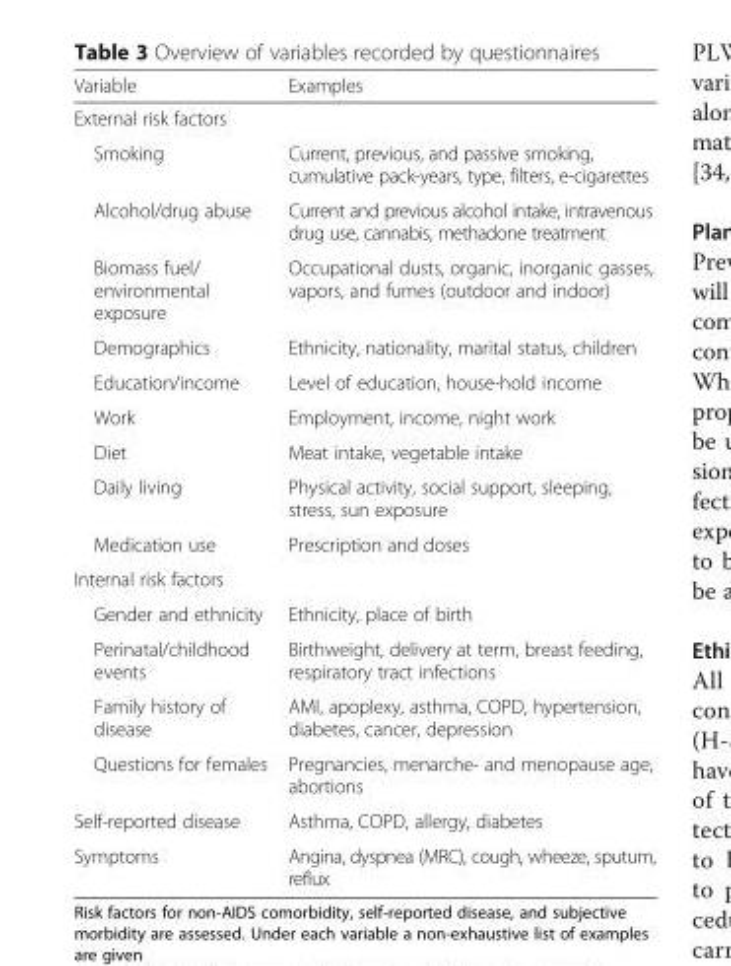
<table><thead><tr><td>Variable</td><td>Examples</td></tr></thead><tbody><tr><td colspan="2">External risk factors</td></tr><tr><td>Smoking</td><td>Current, previous, and passive smoking, cumulative pack-years, type, filters, e-cigarettes</td></tr><tr><td>Alcohol/drug abuse</td><td>Current and previous alcohol intake, intravenous drug use, cannabis, methadone treatment</td></tr><tr><td>Biomass fuel/ environmental exposure</td><td>Occupational dusts, organic, inorganic gasses, vapors, and fumes (outdoor and indoor)</td></tr><tr><td>Demographics</td><td>Ethnicity, nationality, marital status, children</td></tr><tr><td>Education/income</td><td>Level of education, house-hold income</td></tr><tr><td>Work</td><td>Employment, income, night work</td></tr><tr><td>Diet</td><td>Meat intake, vegetable intake</td></tr><tr><td>Daily living</td><td>Physical activity, social support, sleeping, stress, sun exposure</td></tr><tr><td>Medication use</td><td>Prescription and doses</td></tr><tr><td colspan="2">Internal risk factors</td></tr><tr><td>Gender and ethnicity</td><td>Ethnicity, place of birth</td></tr><tr><td>Perinatal/childhood events</td><td>Birthweight, delivery at term, breast feeding, respiratory tract infections</td></tr><tr><td>Family history of disease</td><td>AMI, apoplexy, asthma, COPD, hypertension, diabetes, cancer, depression</td></tr><tr><td>Questions for females</td><td>Pregnancies, menarche- and menopause age, abortions</td></tr><tr><td>Self-reported disease</td><td>Asthma, COPD, allergy, diabetes</td></tr><tr><td>Symptoms</td><td>Angina, dyspnea (MRC), cough, wheeze, sputum, reflux</td></tr></tbody></table>